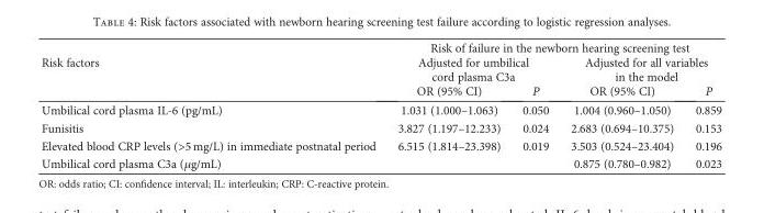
<table><thead><tr><td rowspan="3">Risk factors</td><td colspan="4">Risk of failure in the newborn hearing screening test</td></tr><tr><td colspan="2">Adjusted for umbilical cord plasma C3a</td><td colspan="2">Adjusted for all variables in the model</td></tr><tr><td>OR (95% CI)</td><td>P</td><td>OR (95% CI)</td><td>P</td></tr></thead><tbody><tr><td>Umbilical cord plasma IL-6 (pg/mL)</td><td>1.031 (1.000–1.063)</td><td>0.050</td><td>1.004 (0.960–1.050)</td><td>0.859</td></tr><tr><td>Funisitis</td><td>3.827 (1.197–12.233)</td><td>0.024</td><td>2.683 (0.694–10.375)</td><td>0.153</td></tr><tr><td>Elevated blood CRP levels (&gt;5 mg/L) in immediate postnatal period</td><td>6.515 (1.814–23.398)</td><td>0.019</td><td>3.503 (0.524–23.404)</td><td>0.196</td></tr><tr><td>Umbilical cord plasma C3a (μg/mL)</td><td></td><td></td><td>0.875 (0.780–0.982)</td><td>0.023</td></tr></tbody></table>